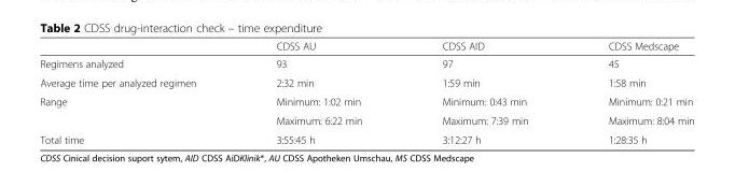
<table><thead><tr><td></td><td>CDSS AU</td><td>CDSS AID</td><td>CDSS Medscape</td></tr></thead><tbody><tr><td>Regimens analyzed</td><td>93</td><td>97</td><td>45</td></tr><tr><td>Average time per analyzed regimen</td><td>2:32 min</td><td>1:59 min</td><td>1:58 min</td></tr><tr><td rowspan="2">Range</td><td>Minimum: 1:02 min</td><td>Minimum: 0:43 min</td><td>Minimum: 0:21 min</td></tr><tr><td>Maximum: 6:22 min</td><td>Maximum: 7:39 min</td><td>Maximum: 8:04 min</td></tr><tr><td>Total time</td><td>3:55:45 h</td><td>3:12:27 h</td><td>1:28:35 h</td></tr></tbody></table>